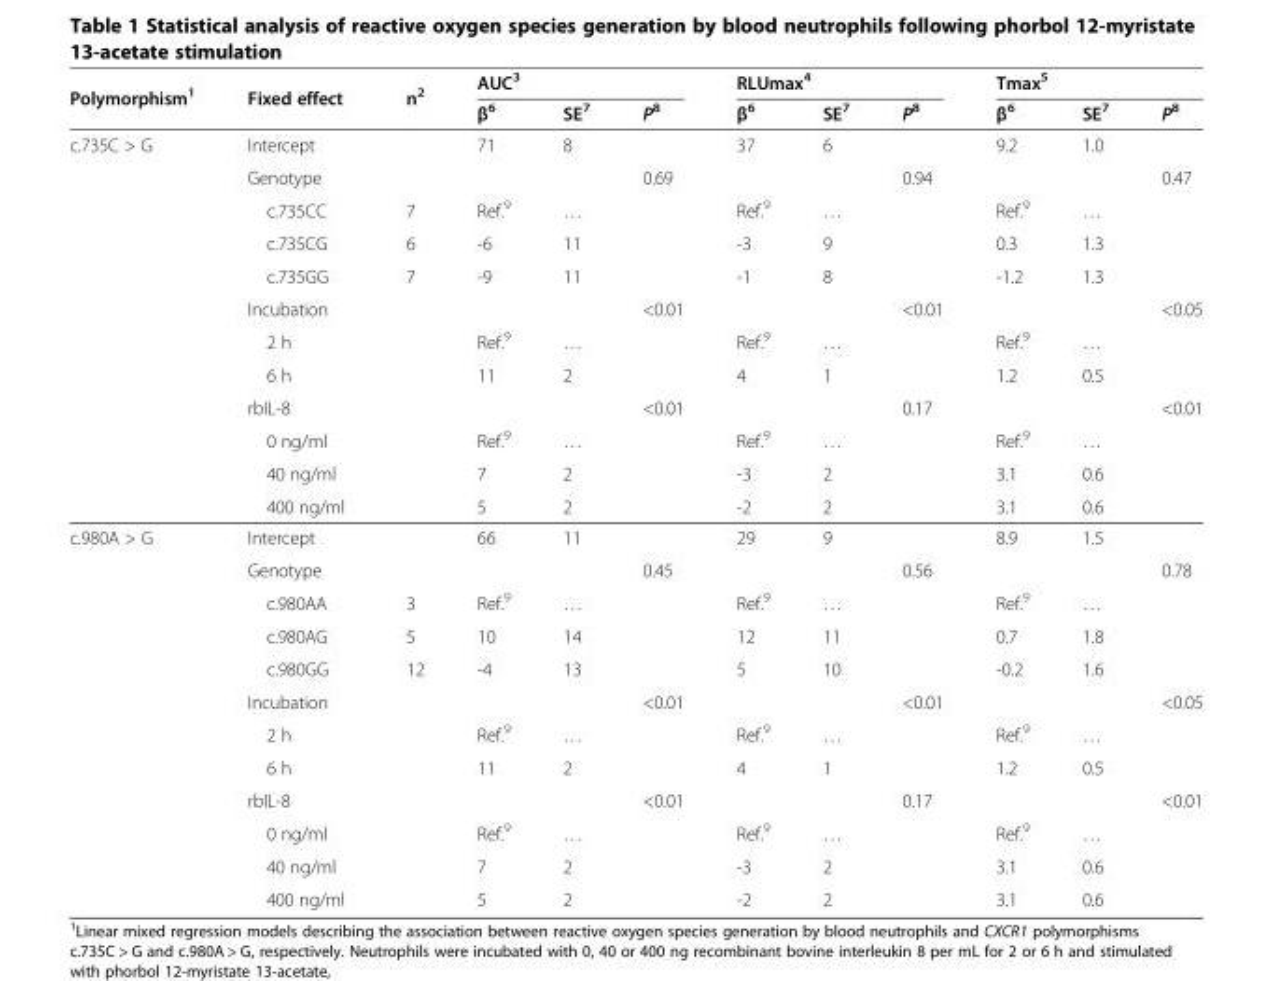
<table><thead><tr><td rowspan="2">Polymorphism<sup>1</sup></td><td rowspan="2">Fixed effect</td><td rowspan="2">n<sup>2</sup></td><td colspan="3">AUC<sup>3</sup></td><td colspan="3">RLUmax<sup>4</sup></td><td colspan="3">Tmax<sup>5</sup></td></tr><tr><td>β<sup>6</sup></td><td>SE<sup>7</sup></td><td>P<sup>8</sup></td><td>β<sup>6</sup></td><td>SE<sup>7</sup></td><td>P<sup>8</sup></td><td>β<sup>6</sup></td><td>SE<sup>7</sup></td><td>P<sup>8</sup></td></tr></thead><tbody><tr><td rowspan="12">c.735C &gt; G</td><td>Intercept</td><td></td><td>71</td><td>8</td><td></td><td>37</td><td>6</td><td></td><td>9.2</td><td>1.0</td><td></td></tr><tr><td>Genotype</td><td></td><td></td><td></td><td>0.69</td><td></td><td></td><td>0.94</td><td></td><td></td><td>0.47</td></tr><tr><td>c.735CC</td><td>7</td><td>Ref.<sup>9</sup></td><td>…</td><td></td><td>Ref.<sup>9</sup></td><td>…</td><td></td><td>Ref.<sup>9</sup></td><td>…</td><td></td></tr><tr><td>c.735CG</td><td>6</td><td>-6</td><td>11</td><td></td><td>-3</td><td>9</td><td></td><td>0.3</td><td>1.3</td><td></td></tr><tr><td>c.735GG</td><td>7</td><td>-9</td><td>11</td><td></td><td>-1</td><td>8</td><td></td><td>-1.2</td><td>1.3</td><td></td></tr><tr><td>Incubation</td><td></td><td></td><td></td><td>&lt;0.01</td><td></td><td></td><td>&lt;0.01</td><td></td><td></td><td>&lt;0.05</td></tr><tr><td>2 h</td><td></td><td>Ref.<sup>9</sup></td><td>…</td><td></td><td>Ref.<sup>9</sup></td><td>…</td><td></td><td>Ref.<sup>9</sup></td><td>…</td><td></td></tr><tr><td>6 h</td><td></td><td>11</td><td>2</td><td></td><td>4</td><td>1</td><td></td><td>1.2</td><td>0.5</td><td></td></tr><tr><td>rbIL-8</td><td></td><td></td><td></td><td>&lt;0.01</td><td></td><td></td><td>0.17</td><td></td><td></td><td>&lt;0.01</td></tr><tr><td>0 ng/ml</td><td></td><td>Ref.<sup>9</sup></td><td>…</td><td></td><td>Ref.<sup>9</sup></td><td>…</td><td></td><td>Ref.<sup>9</sup></td><td>…</td><td></td></tr><tr><td>40 ng/ml</td><td></td><td>7</td><td>2</td><td></td><td>-3</td><td>2</td><td></td><td>3.1</td><td>0.6</td><td></td></tr><tr><td>400 ng/ml</td><td></td><td>5</td><td>2</td><td></td><td>-2</td><td>2</td><td></td><td>3.1</td><td>0.6</td><td></td></tr><tr><td rowspan="12">c.980A &gt; G</td><td>Intercept</td><td></td><td>66</td><td>11</td><td></td><td>29</td><td>9</td><td></td><td>8.9</td><td>1.5</td><td></td></tr><tr><td>Genotype</td><td></td><td></td><td></td><td>0.45</td><td></td><td></td><td>0.56</td><td></td><td></td><td>0.78</td></tr><tr><td>c.980AA</td><td>3</td><td>Ref.<sup>9</sup></td><td>…</td><td></td><td>Ref.<sup>9</sup></td><td>…</td><td></td><td>Ref.<sup>9</sup></td><td>…</td><td></td></tr><tr><td>c.980AG</td><td>5</td><td>10</td><td>14</td><td></td><td>12</td><td>11</td><td></td><td>0.7</td><td>1.8</td><td></td></tr><tr><td>c.980GG</td><td>12</td><td>-4</td><td>13</td><td></td><td>5</td><td>10</td><td></td><td>-0.2</td><td>1.6</td><td></td></tr><tr><td>Incubation</td><td></td><td></td><td></td><td>&lt;0.01</td><td></td><td></td><td>&lt;0.01</td><td></td><td></td><td>&lt;0.05</td></tr><tr><td>2 h</td><td></td><td>Ref.<sup>9</sup></td><td>…</td><td></td><td>Ref.<sup>9</sup></td><td>…</td><td></td><td>Ref.<sup>9</sup></td><td>…</td><td></td></tr><tr><td>6 h</td><td></td><td>11</td><td>2</td><td></td><td>4</td><td>1</td><td></td><td>1.2</td><td>0.5</td><td></td></tr><tr><td>rbIL-8</td><td></td><td></td><td></td><td>&lt;0.01</td><td></td><td></td><td>0.17</td><td></td><td></td><td>&lt;0.01</td></tr><tr><td>0 ng/ml</td><td></td><td>Ref.<sup>9</sup></td><td>…</td><td></td><td>Ref.<sup>9</sup></td><td>…</td><td></td><td>Ref.<sup>9</sup></td><td>…</td><td></td></tr><tr><td>40 ng/ml</td><td></td><td>7</td><td>2</td><td></td><td>-3</td><td>2</td><td></td><td>3.1</td><td>0.6</td><td></td></tr><tr><td>400 ng/ml</td><td></td><td>5</td><td>2</td><td></td><td>-2</td><td>2</td><td></td><td>3.1</td><td>0.6</td><td></td></tr></tbody></table>